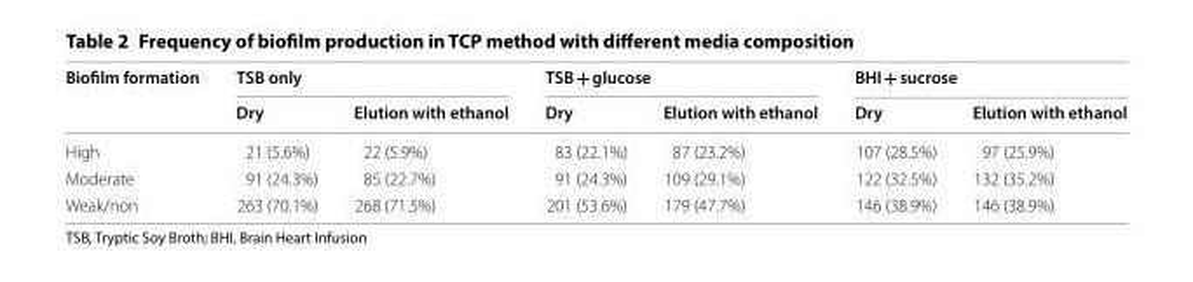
<table><thead><tr><td rowspan="2">Biofilm formation</td><td colspan="2">TSB only</td><td colspan="2">TSB + glucose</td><td colspan="2">BHI + sucrose</td></tr><tr><td>Dry</td><td>Elution with ethanol</td><td>Dry</td><td>Elution with ethanol</td><td>Dry</td><td>Elution with ethanol</td></tr></thead><tbody><tr><td>High</td><td>21 (5.6%)</td><td>22 (5.9%)</td><td>83 (22.1%)</td><td>87 (23.2%)</td><td>107 (28.5%)</td><td>97 (25.9%)</td></tr><tr><td>Moderate</td><td>91 (24.3%)</td><td>85 (22.7%)</td><td>91 (24.3%)</td><td>109 (29.1%)</td><td>122 (32.5%)</td><td>132 (35.2%)</td></tr><tr><td>Weak/non</td><td>263 (70.1%)</td><td>268 (71.5%)</td><td>201 (53.6%)</td><td>179 (47.7%)</td><td>146 (38.9%)</td><td>146 (38.9%)</td></tr></tbody></table>